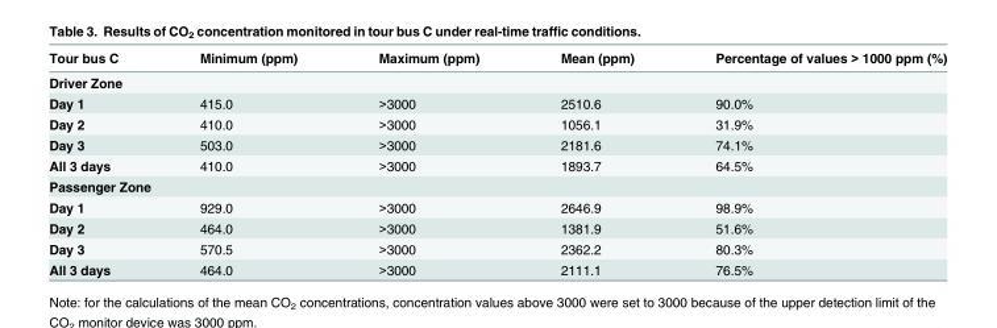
<table><thead><tr><td>Tour bus C</td><td>Minimum (ppm)</td><td>Maximum (ppm)</td><td>Mean (ppm)</td><td>Percentage of values &gt; 1000 ppm (%)</td></tr></thead><tbody><tr><td colspan="5">Driver Zone</td></tr><tr><td>Day 1</td><td>415.0</td><td>&gt;3000</td><td>2510.6</td><td>90.0%</td></tr><tr><td>Day 2</td><td>410.0</td><td>&gt;3000</td><td>1056.1</td><td>31.9%</td></tr><tr><td>Day 3</td><td>503.0</td><td>&gt;3000</td><td>2181.6</td><td>74.1%</td></tr><tr><td>All 3 days</td><td>410.0</td><td>&gt;3000</td><td>1893.7</td><td>64.5%</td></tr><tr><td colspan="5">Passenger Zone</td></tr><tr><td>Day 1</td><td>929.0</td><td>&gt;3000</td><td>2646.9</td><td>98.9%</td></tr><tr><td>Day 2</td><td>464.0</td><td>&gt;3000</td><td>1381.9</td><td>51.6%</td></tr><tr><td>Day 3</td><td>570.5</td><td>&gt;3000</td><td>2362.2</td><td>80.3%</td></tr><tr><td>All 3 days</td><td>464.0</td><td>&gt;3000</td><td>2111.1</td><td>76.5%</td></tr></tbody></table>